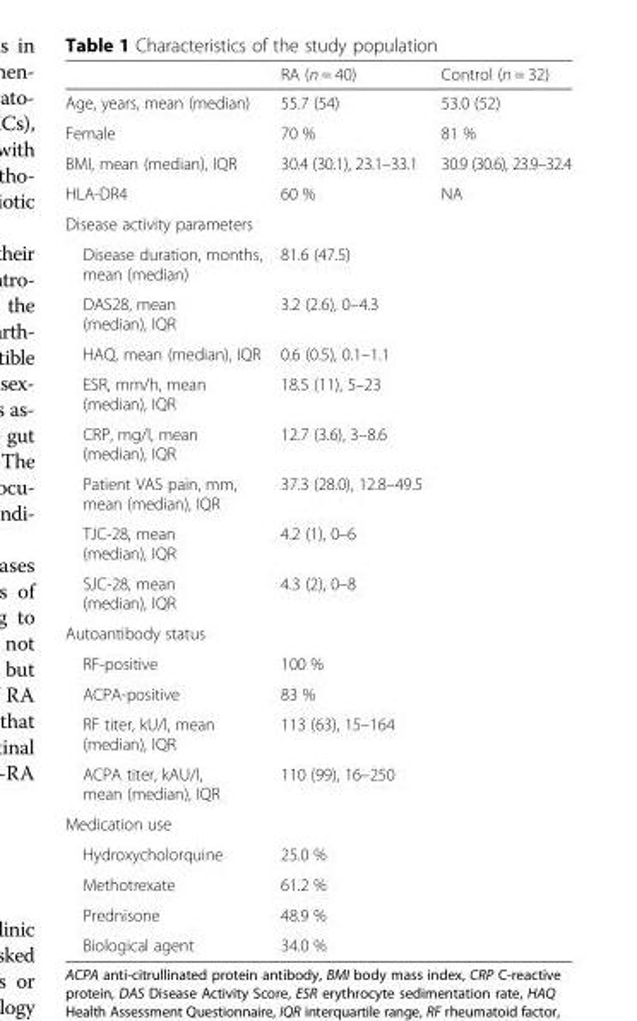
<table><thead><tr><td></td><td>RA (n = 40)</td><td>Control (n = 32)</td></tr></thead><tbody><tr><td>Age, years, mean (median)</td><td>55.7 (54)</td><td>53.0 (52)</td></tr><tr><td>Female</td><td>70 %</td><td>81 %</td></tr><tr><td>BMI, mean (median), IQR</td><td>30.4 (30.1), 23.1–33.1</td><td>30.9 (30.6), 23.9–32.4</td></tr><tr><td>HLA-DR4</td><td>60 %</td><td>NA</td></tr><tr><td colspan="3">Disease activity parameters</td></tr><tr><td>Disease duration, months, mean (median)</td><td>81.6 (47.5)</td><td></td></tr><tr><td>DAS28, mean (median), IQR</td><td>3.2 (2.6), 0–4.3</td><td></td></tr><tr><td>HAQ, mean (median), IQR</td><td>0.6 (0.5), 0.1–1.1</td><td></td></tr><tr><td>ESR, mm/h, mean (median), IQR</td><td>18.5 (11), 5–23</td><td></td></tr><tr><td>CRP, mg/l, mean (median), IQR</td><td>12.7 (3.6), 3–8.6</td><td></td></tr><tr><td>Patient VAS pain, mm, mean (median), IQR</td><td>37.3 (28.0), 12.8–49.5</td><td></td></tr><tr><td>TJC-28, mean (median), IQR</td><td>4.2 (1), 0–6</td><td></td></tr><tr><td>SJC-28, mean (median), IQR</td><td>4.3 (2), 0–8</td><td></td></tr><tr><td colspan="3">Autoantibody status</td></tr><tr><td>RF-positive</td><td>100 %</td><td></td></tr><tr><td>ACPA-positive</td><td>83 %</td><td></td></tr><tr><td>RF titer, kU/l, mean (median), IQR</td><td>113 (63), 15–164</td><td></td></tr><tr><td>ACPA titer, kAU/l, mean (median), IQR</td><td>110 (99), 16–250</td><td></td></tr><tr><td colspan="3">Medication use</td></tr><tr><td>Hydroxycholorquine</td><td>25.0 %</td><td></td></tr><tr><td>Methotrexate</td><td>61.2 %</td><td></td></tr><tr><td>Prednisone</td><td>48.9 %</td><td></td></tr><tr><td>Biological agent</td><td>34.0 %</td><td></td></tr></tbody></table>